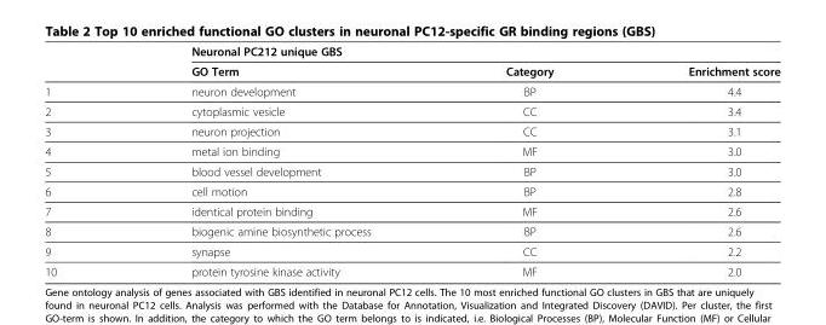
<table><thead><tr><td rowspan="2"></td><td colspan="3">Neuronal PC212 unique GBS</td></tr><tr><td>GO Term</td><td>Category</td><td>Enrichment score</td></tr></thead><tbody><tr><td>1</td><td>neuron development</td><td>BP</td><td>4.4</td></tr><tr><td>2</td><td>cytoplasmic vesicle</td><td>CC</td><td>3.4</td></tr><tr><td>3</td><td>neuron projection</td><td>CC</td><td>3.1</td></tr><tr><td>4</td><td>metal ion binding</td><td>MF</td><td>3.0</td></tr><tr><td>5</td><td>blood vessel development</td><td>BP</td><td>3.0</td></tr><tr><td>6</td><td>cell motion</td><td>BP</td><td>2.8</td></tr><tr><td>7</td><td>identical protein binding</td><td>MF</td><td>2.6</td></tr><tr><td>8</td><td>biogenic amine biosynthetic process</td><td>BP</td><td>2.6</td></tr><tr><td>9</td><td>synapse</td><td>CC</td><td>2.2</td></tr><tr><td>10</td><td>protein tyrosine kinase activity</td><td>MF</td><td>2.0</td></tr></tbody></table>